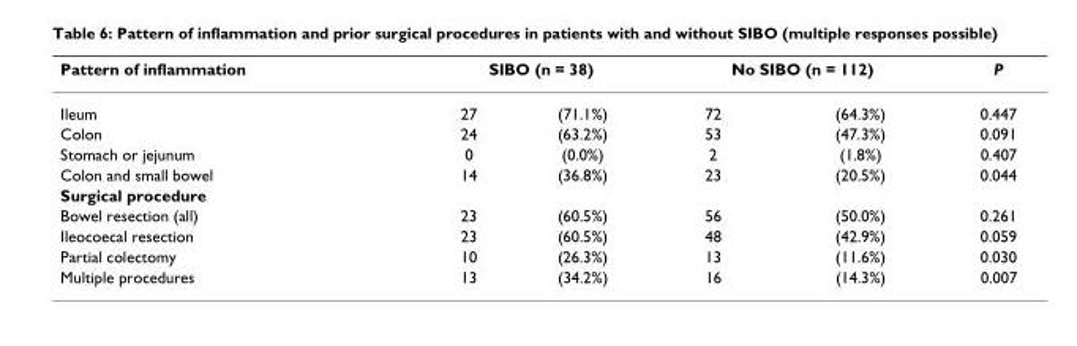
<table><thead><tr><td rowspan="2">Pattern of inflammation Ileum</td><td colspan="2">SIBO (n = 38)</td><td colspan="2">No SIBO (n = 112)</td><td rowspan="2">P 0.447</td></tr><tr><td>27</td><td>(71.1%)</td><td>72</td><td>(64.3%)</td></tr></thead><tbody><tr><td>Colon</td><td>24</td><td>(63.2%)</td><td>53</td><td>(47.3%)</td><td>0.091</td></tr><tr><td>Stomach or jejunum</td><td>0</td><td>(0.0%)</td><td>2</td><td>(1.8%)</td><td>0.407</td></tr><tr><td>Colon and small bowel</td><td>14</td><td>(36.8%)</td><td>23</td><td>(20.5%)</td><td>0.044</td></tr><tr><td colspan="6">Surgical procedure</td></tr><tr><td>Bowel resection (all)</td><td>23</td><td>(60.5%)</td><td>56</td><td>(50.0%)</td><td>0.261</td></tr><tr><td>Ileocoecal resection</td><td>23</td><td>(60.5%)</td><td>48</td><td>(42.9%)</td><td>0.059</td></tr><tr><td>Partial colectomy</td><td>10</td><td>(26.3%)</td><td>13</td><td>(11.6%)</td><td>0.030</td></tr><tr><td>Multiple procedures</td><td>13</td><td>(34.2%)</td><td>16</td><td>(14.3%)</td><td>0.007</td></tr></tbody></table>